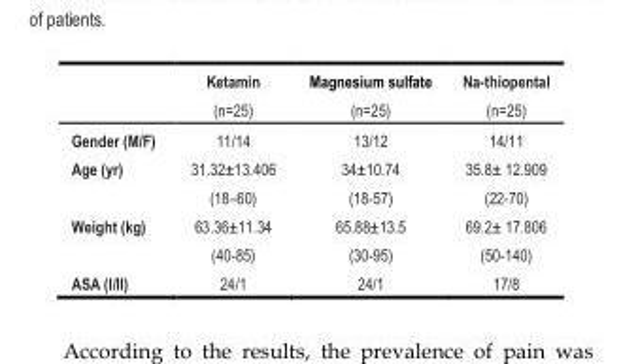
<table><thead><tr><td></td><td>Ketamin (n=25)</td><td>Magnesium sulfate (n=25)</td><td>Na-thiopental (n=25)</td></tr></thead><tbody><tr><td>Gender (M/F)</td><td>11/14</td><td>13/12</td><td>14/11</td></tr><tr><td>Age (yr)</td><td>31.32±13.406 (18–60)</td><td>34±10.74 (18-57)</td><td>35.8± 12.909 (22-70)</td></tr><tr><td>Weight (kg)</td><td>63.36±11.34 (40-85)</td><td>65.88±13.5 (30-95)</td><td>69.2± 17.806 (50-140)</td></tr><tr><td>ASA (I/II)</td><td>24/1</td><td>24/1</td><td>17/8</td></tr></tbody></table>